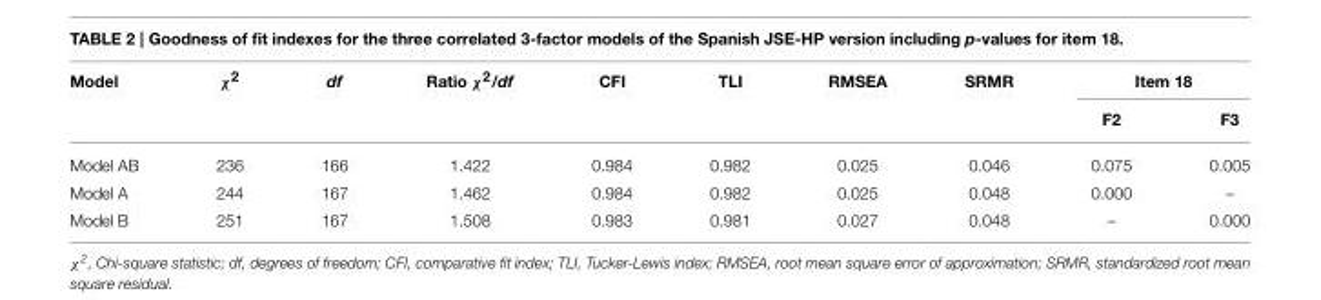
<table><thead><tr><td rowspan="2">Model</td><td rowspan="2">χ<sup>2</sup></td><td rowspan="2">df</td><td rowspan="2">Ratio χ<sup>2</sup>/df</td><td rowspan="2">CFI</td><td rowspan="2">TLI</td><td rowspan="2">RMSEA</td><td rowspan="2">SRMR</td><td colspan="2">Item 18</td></tr><tr><td>F2</td><td>F3</td></tr></thead><tbody><tr><td>Model AB</td><td>236</td><td>166</td><td>1.422</td><td>0.984</td><td>0.982</td><td>0.025</td><td>0.046</td><td>0.075</td><td>0.005</td></tr><tr><td>Model A</td><td>244</td><td>167</td><td>1.462</td><td>0.984</td><td>0.982</td><td>0.025</td><td>0.048</td><td>0.000</td><td>–</td></tr><tr><td>Model B</td><td>251</td><td>167</td><td>1.508</td><td>0.983</td><td>0.981</td><td>0.027</td><td>0.048</td><td>–</td><td>0.000</td></tr></tbody></table>